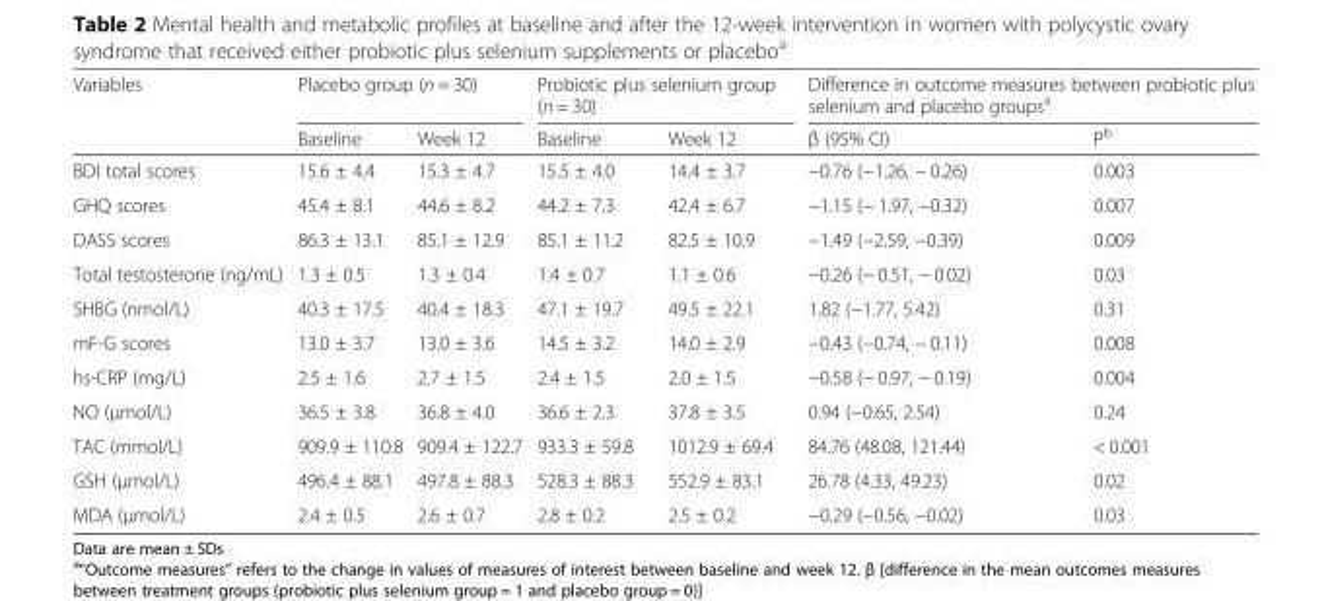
<table><thead><tr><td rowspan="2">Variables</td><td colspan="2">Placebo group (n = 30)</td><td colspan="2">Probiotic plus selenium group (n = 30)</td><td colspan="2">Difference in outcome measures between probiotic plus selenium and placebo groups<sup>a</sup></td></tr><tr><td>Baseline</td><td>Week 12</td><td>Baseline</td><td>Week 12</td><td>β (95% CI)</td><td>P<sup>b</sup></td></tr></thead><tbody><tr><td>BDI total scores</td><td>15.6 ± 4.4</td><td>15.3 ± 4.7</td><td>15.5 ± 4.0</td><td>14.4 ± 3.7</td><td>−0.76 (−1.26, − 0.26)</td><td>0.003</td></tr><tr><td>GHQ scores</td><td>45.4 ± 8.1</td><td>44.6 ± 8.2</td><td>44.2 ± 7.3</td><td>42.4 ± 6.7</td><td>−1.15 (− 1.97, −0.32)</td><td>0.007</td></tr><tr><td>DASS scores</td><td>86.3 ± 13.1</td><td>85.1 ± 12.9</td><td>85.1 ± 11.2</td><td>82.5 ± 10.9</td><td>−1.49 (−2.59, −0.39)</td><td>0.009</td></tr><tr><td>Total testosterone (ng/mL)</td><td>1.3 ± 0.5</td><td>1.3 ± 0.4</td><td>1.4 ± 0.7</td><td>1.1 ± 0.6</td><td>−0.26 (− 0.51, − 0.02)</td><td>0.03</td></tr><tr><td>SHBG (nmol/L)</td><td>40.3 ± 17.5</td><td>40.4 ± 18.3</td><td>47.1 ± 19.7</td><td>49.5 ± 22.1</td><td>1.82 (−1.77, 5.42)</td><td>0.31</td></tr><tr><td>mF-G scores</td><td>13.0 ± 3.7</td><td>13.0 ± 3.6</td><td>14.5 ± 3.2</td><td>14.0 ± 2.9</td><td>−0.43 (−0.74, − 0.11)</td><td>0.008</td></tr><tr><td>hs-CRP (mg/L)</td><td>2.5 ± 1.6</td><td>2.7 ± 1.5</td><td>2.4 ± 1.5</td><td>2.0 ± 1.5</td><td>−0.58 (− 0.97, − 0.19)</td><td>0.004</td></tr><tr><td>NO (μmol/L)</td><td>36.5 ± 3.8</td><td>36.8 ± 4.0</td><td>36.6 ± 2.3</td><td>37.8 ± 3.5</td><td>0.94 (−0.65, 2.54)</td><td>0.24</td></tr><tr><td>TAC (mmol/L)</td><td>909.9 ± 110.8</td><td>909.4 ± 122.7</td><td>933.3 ± 59.8</td><td>1012.9 ± 69.4</td><td>84.76 (48.08, 121.44)</td><td>&lt; 0.001</td></tr><tr><td>GSH (μmol/L)</td><td>496.4 ± 88.1</td><td>497.8 ± 88.3</td><td>528.3 ± 88.3</td><td>552.9 ± 83.1</td><td>26.78 (4.33, 49.23)</td><td>0.02</td></tr><tr><td>MDA (μmol/L)</td><td>2.4 ± 0.5</td><td>2.6 ± 0.7</td><td>2.8 ± 0.2</td><td>2.5 ± 0.2</td><td>−0.29 (−0.56, −0.02)</td><td>0.03</td></tr></tbody></table>